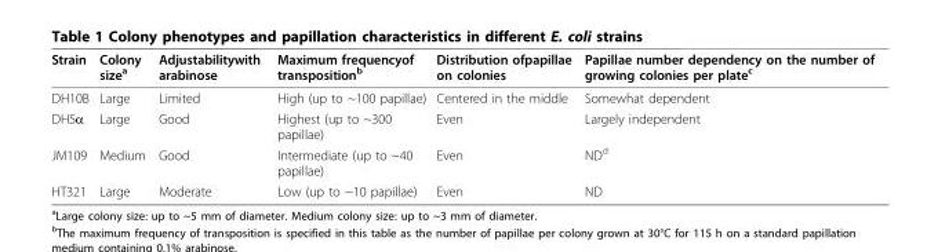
<table><thead><tr><td>Strain</td><td>Colony size<sup>a</sup></td><td>Adjustabilitywith arabinose</td><td>Maximum frequencyof transposition<sup>b</sup></td><td>Distribution ofpapillae on colonies</td><td>Papillae number dependency on the number of growing colonies per plate<sup>c</sup></td></tr></thead><tbody><tr><td>DH10B</td><td>Large</td><td>Limited</td><td>High (up to ~100 papillae)</td><td>Centered in the middle</td><td>Somewhat dependent</td></tr><tr><td>DH5α</td><td>Large</td><td>Good</td><td>Highest (up to ~300 papillae)</td><td>Even</td><td>Largely independent</td></tr><tr><td>JM109</td><td>Medium</td><td>Good</td><td>Intermediate (up to ~40 papillae)</td><td>Even</td><td>ND<sup>d</sup></td></tr><tr><td>HT321</td><td>Large</td><td>Moderate</td><td>Low (up to ~10 papillae)</td><td>Even</td><td>ND</td></tr></tbody></table>